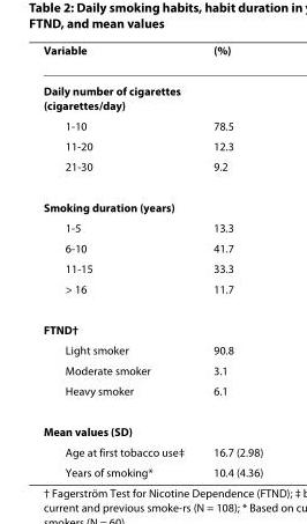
<table><thead><tr><td>Variable</td><td>(%)</td></tr></thead><tbody><tr><td colspan="2">Daily number of cigarettes (cigarettes/day)</td></tr><tr><td>1-10</td><td>78.5</td></tr><tr><td>11-20</td><td>12.3</td></tr><tr><td>21-30</td><td>9.2</td></tr><tr><td colspan="2">Smoking duration (years)</td></tr><tr><td>1-5</td><td>13.3</td></tr><tr><td>6-10</td><td>41.7</td></tr><tr><td>11-15</td><td>33.3</td></tr><tr><td>&gt; 16</td><td>11.7</td></tr><tr><td colspan="2">FTND†</td></tr><tr><td>Light smoker</td><td>90.8</td></tr><tr><td>Moderate smoker</td><td>3.1</td></tr><tr><td>Heavy smoker</td><td>6.1</td></tr><tr><td colspan="2">Mean values (SD)</td></tr><tr><td>Age at first tobacco use‡</td><td>16.7 (2.98)</td></tr><tr><td>Years of smoking*</td><td>10.4 (4.36)</td></tr></tbody></table>